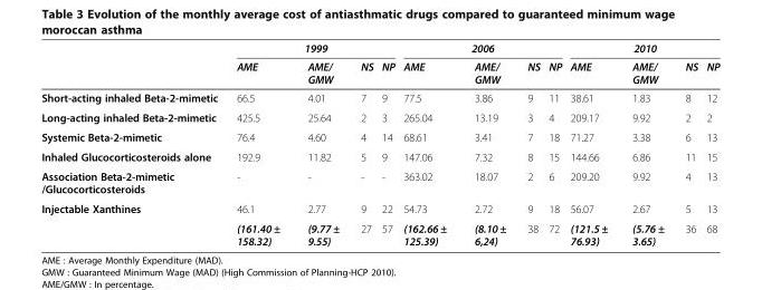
<table><thead><tr><td rowspan="2"></td><td colspan="4">1999</td><td colspan="4">2006</td><td colspan="4">2010</td></tr><tr><td>AME</td><td>AME/ GMW</td><td>NS</td><td>NP</td><td>AME</td><td>AME/ GMW</td><td>NS</td><td>NP</td><td>AME</td><td>AME/ GMW</td><td>NS</td><td>NP</td></tr></thead><tbody><tr><td>Short-acting inhaled Beta-2-mimetic</td><td>66.5</td><td>4.01</td><td>7</td><td>9</td><td>77.5</td><td>3.86</td><td>9</td><td>11</td><td>38.61</td><td>1.83</td><td>8</td><td>12</td></tr><tr><td>Long-acting inhaled Beta-2-mimetic</td><td>425.5</td><td>25.64</td><td>2</td><td>3</td><td>265.04</td><td>13.19</td><td>3</td><td>4</td><td>209.17</td><td>9.92</td><td>2</td><td>2</td></tr><tr><td>Systemic Beta-2-mimetic</td><td>76.4</td><td>4.60</td><td>4</td><td>14</td><td>68.61</td><td>3.41</td><td>7</td><td>18</td><td>71.27</td><td>3.38</td><td>6</td><td>13</td></tr><tr><td>Inhaled Glucocorticosteroids alone</td><td>192.9</td><td>11.82</td><td>5</td><td>9</td><td>147.06</td><td>7.32</td><td>8</td><td>15</td><td>144.66</td><td>6.86</td><td>11</td><td>15</td></tr><tr><td>Association Beta-2-mimetic /Glucocorticosteroids</td><td>-</td><td>-</td><td>-</td><td>-</td><td>363.02</td><td>18.07</td><td>2</td><td>6</td><td>209.20</td><td>9.92</td><td>4</td><td>13</td></tr><tr><td rowspan="2">Injectable Xanthines</td><td>46.1</td><td>2.77</td><td>9</td><td>22</td><td>54.73</td><td>2.72</td><td>9</td><td>18</td><td>56.07</td><td>2.67</td><td>5</td><td>13</td></tr><tr><td>(161.40 ± 158.32)</td><td>(9.77 ± 9.55)</td><td>27</td><td>57</td><td>(162.66 ± 125.39)</td><td>(8.10 ± 6,24)</td><td>38</td><td>72</td><td>(121.5 ± 76.93)</td><td>(5.76 ± 3.65)</td><td>36</td><td>68</td></tr></tbody></table>